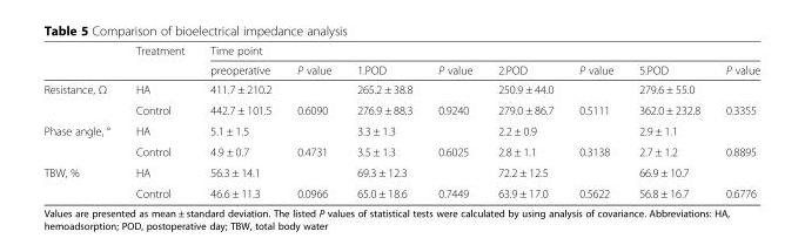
<table><thead><tr><td rowspan="2"></td><td rowspan="2">Treatment</td><td colspan="8">Time point</td></tr><tr><td>preoperative</td><td>P value</td><td>1.POD</td><td>P value</td><td>2.POD</td><td>P value</td><td>5.POD</td><td>P value</td></tr></thead><tbody><tr><td rowspan="2">Resistance, Ω</td><td>HA</td><td>411.7 ± 210.2</td><td></td><td>265.2 ± 38.8</td><td></td><td>250.9 ± 44.0</td><td></td><td>279.6 ± 55.0</td><td></td></tr><tr><td>Control</td><td>442.7 ± 101.5</td><td>0.6090</td><td>276.9 ± 88.3</td><td>0.9240</td><td>279.0 ± 86.7</td><td>0.5111</td><td>362.0 ± 232.8</td><td>0.3355</td></tr><tr><td rowspan="2">Phase angle, °</td><td>HA</td><td>5.1 ± 1.5</td><td></td><td>3.3 ± 1.3</td><td></td><td>2.2 ± 0.9</td><td></td><td>2.9 ± 1.1</td><td></td></tr><tr><td>Control</td><td>4.9 ± 0.7</td><td>0.4731</td><td>3.5 ± 1.3</td><td>0.6025</td><td>2.8 ± 1.1</td><td>0.3138</td><td>2.7 ± 1.2</td><td>0.8895</td></tr><tr><td rowspan="2">TBW, %</td><td>HA</td><td>56.3 ± 14.1</td><td></td><td>69.3 ± 12.3</td><td></td><td>72.2 ± 12.5</td><td></td><td>66.9 ± 10.7</td><td></td></tr><tr><td>Control</td><td>46.6 ± 11.3</td><td>0.0966</td><td>65.0 ± 18.6</td><td>0.7449</td><td>63.9 ± 17.0</td><td>0.5622</td><td>56.8 ± 16.7</td><td>0.6776</td></tr></tbody></table>